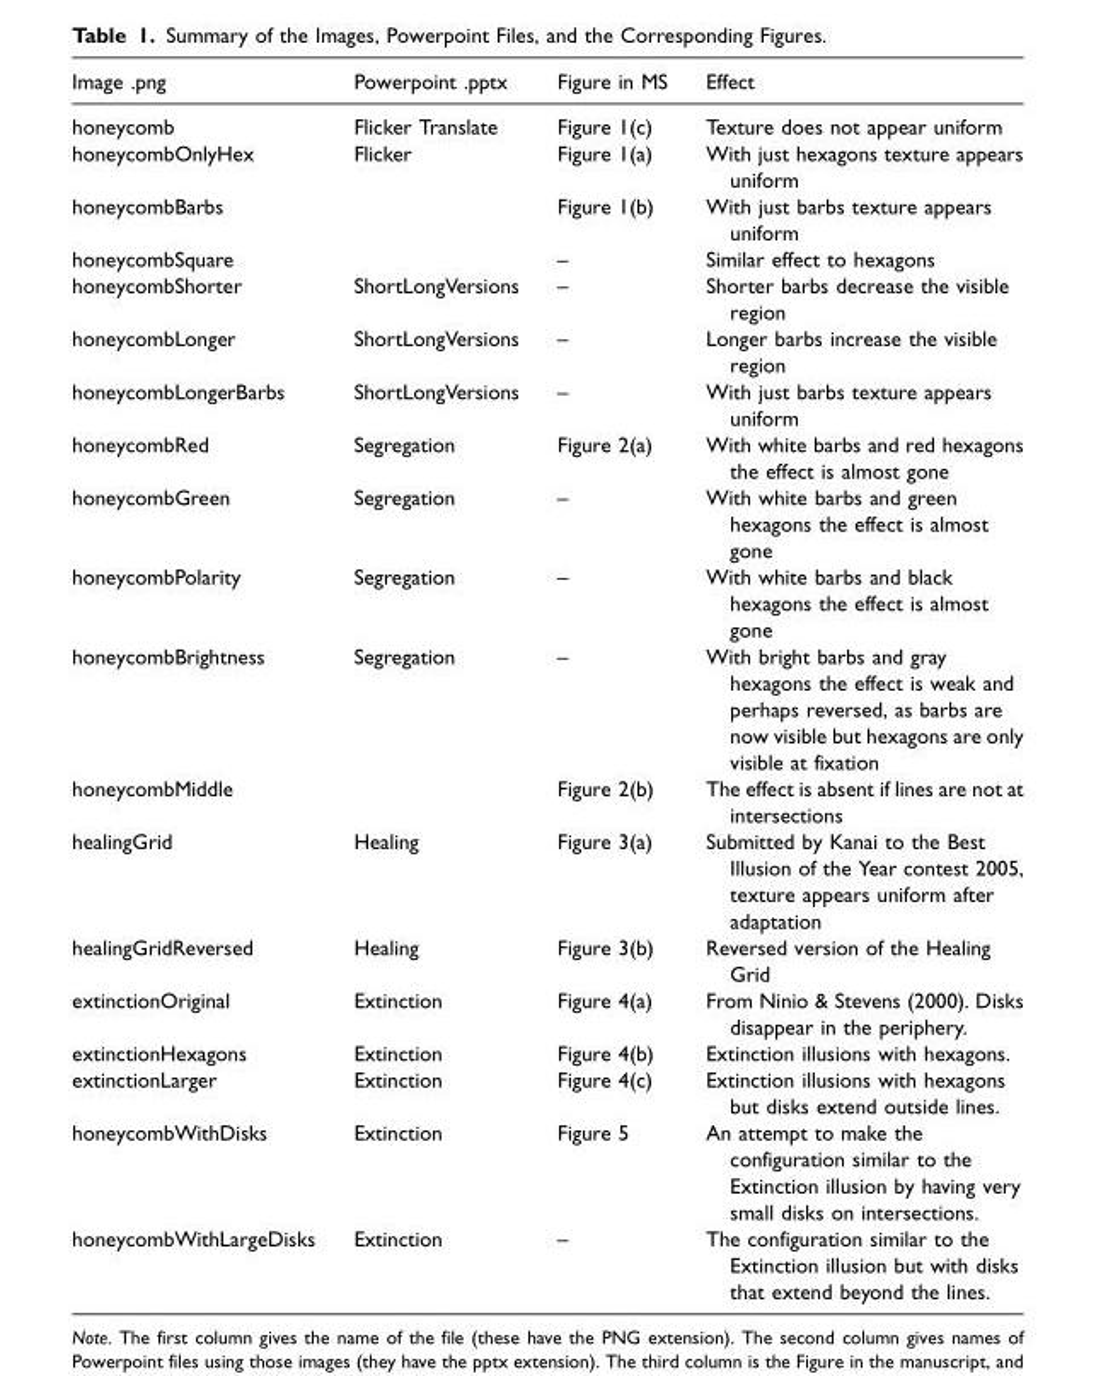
<table><thead><tr><td>Image .png</td><td>Powerpoint .pptx</td><td>Figure in MS</td><td>Effect</td></tr></thead><tbody><tr><td>honeycomb</td><td>Flicker Translate</td><td>Figure 1(c)</td><td>Texture does not appear uniform</td></tr><tr><td>honeycombOnlyHex</td><td>Flicker</td><td>Figure 1(a)</td><td>With just hexagons texture appears uniform</td></tr><tr><td>honeycombBarbs</td><td></td><td>Figure 1(b)</td><td>With just barbs texture appears uniform</td></tr><tr><td>honeycombSquare</td><td></td><td>–</td><td>Similar effect to hexagons</td></tr><tr><td>honeycombShorter</td><td>ShortLongVersions</td><td>–</td><td>Shorter barbs decrease the visible region</td></tr><tr><td>honeycombLonger</td><td>ShortLongVersions</td><td>–</td><td>Longer barbs increase the visible region</td></tr><tr><td>honeycombLongerBarbs</td><td>ShortLongVersions</td><td>–</td><td>With just barbs texture appears uniform</td></tr><tr><td>honeycombRed</td><td>Segregation</td><td>Figure 2(a)</td><td>With white barbs and red hexagons the effect is almost gone</td></tr><tr><td>honeycombGreen</td><td>Segregation</td><td>–</td><td>With white barbs and green hexagons the effect is almost gone</td></tr><tr><td>honeycombPolarity</td><td>Segregation</td><td>–</td><td>With white barbs and black hexagons the effect is almost gone</td></tr><tr><td>honeycombBrightness</td><td>Segregation</td><td>–</td><td>With bright barbs and gray hexagons the effect is weak and perhaps reversed, as barbs are now visible but hexagons are only visible at fixation</td></tr><tr><td>honeycombMiddle</td><td></td><td>Figure 2(b)</td><td>The effect is absent if lines are not at intersections</td></tr><tr><td>healingGrid</td><td>Healing</td><td>Figure 3(a)</td><td>Submitted by Kanai to the Best Illusion of the Year contest 2005, texture appears uniform after adaptation</td></tr><tr><td>healingGridReversed</td><td>Healing</td><td>Figure 3(b)</td><td>Reversed version of the Healing Grid</td></tr><tr><td>extinctionOriginal</td><td>Extinction</td><td>Figure 4(a)</td><td>From Ninio &amp; Stevens (2000). Disks disappear in the periphery.</td></tr><tr><td>extinctionHexagons</td><td>Extinction</td><td>Figure 4(b)</td><td>Extinction illusions with hexagons.</td></tr><tr><td>extinctionLarger</td><td>Extinction</td><td>Figure 4(c)</td><td>Extinction illusions with hexagons but disks extend outside lines.</td></tr><tr><td>honeycombWithDisks</td><td>Extinction</td><td>Figure 5</td><td>An attempt to make the configuration similar to the Extinction illusion by having very small disks on intersections.</td></tr><tr><td>honeycombWithLargeDisks</td><td>Extinction</td><td>–</td><td>The configuration similar to the Extinction illusion but with disks that extend beyond the lines.</td></tr></tbody></table>